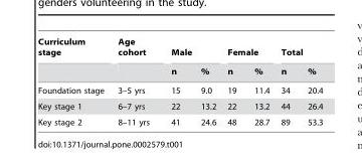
<table><thead><tr><td rowspan="2">Curriculum stage</td><td rowspan="2">Age cohort</td><td colspan="2">Male</td><td colspan="2">Female</td><td colspan="2">Total</td></tr><tr><td>n</td><td>%</td><td>n</td><td>%</td><td>n</td><td>%</td></tr></thead><tbody><tr><td>Foundation stage</td><td>3–5 yrs</td><td>15</td><td>9.0</td><td>19</td><td>11.4</td><td>34</td><td>20.4</td></tr><tr><td>Key stage 1</td><td>6–7 yrs</td><td>22</td><td>13.2</td><td>22</td><td>13.2</td><td>44</td><td>26.4</td></tr><tr><td>Key stage 2</td><td>8–11 yrs</td><td>41</td><td>24.6</td><td>48</td><td>28.7</td><td>89</td><td>53.3</td></tr></tbody></table>